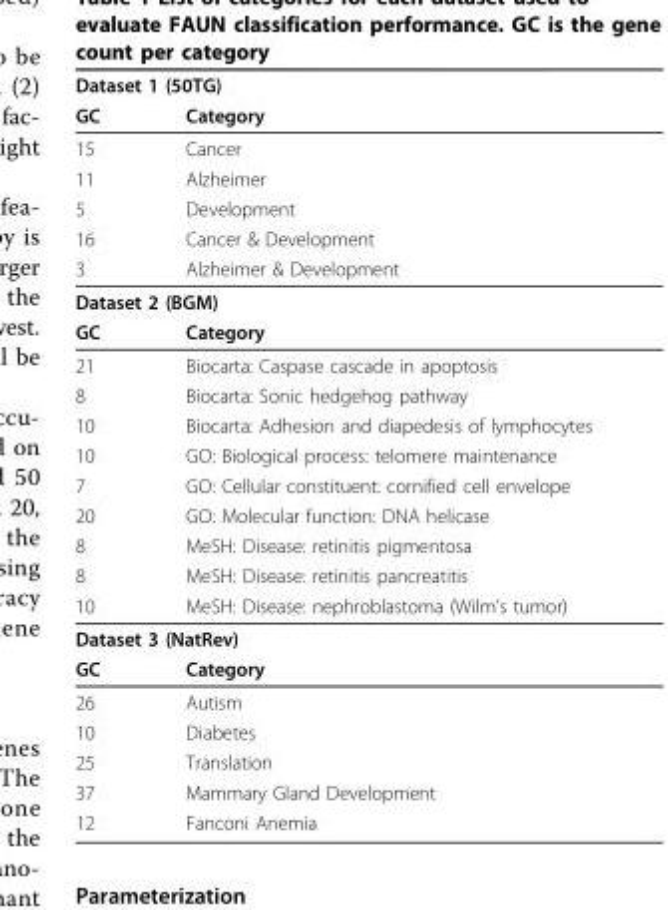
<table><thead><tr><td colspan="2">Dataset 1 (50TG)</td></tr><tr><td>GC</td><td>Category</td></tr></thead><tbody><tr><td>15</td><td>Cancer</td></tr><tr><td>11</td><td>Alzheimer</td></tr><tr><td>5</td><td>Development</td></tr><tr><td>16</td><td>Cancer &amp; Development</td></tr><tr><td>3</td><td>Alzheimer &amp; Development</td></tr><tr><td colspan="2">Dataset 2 (BGM)</td></tr><tr><td>GC</td><td>Category</td></tr><tr><td>21</td><td>Biocarta: Caspase cascade in apoptosis</td></tr><tr><td>8</td><td>Biocarta: Sonic hedgehog pathway</td></tr><tr><td>10</td><td>Biocarta: Adhesion and diapedesis of lymphocytes</td></tr><tr><td>10</td><td>GO: Biological process: telomere maintenance</td></tr><tr><td>7</td><td>GO: Cellular constituent: cornified cell envelope</td></tr><tr><td>20</td><td>GO: Molecular function: DNA helicase</td></tr><tr><td>8</td><td>MeSH: Disease: retinitis pigmentosa</td></tr><tr><td>8</td><td>MeSH: Disease: retinitis pancreatitis</td></tr><tr><td>10</td><td>MeSH: Disease: nephroblastoma (Wilm’s tumor)</td></tr><tr><td colspan="2">Dataset 3 (NatRev)</td></tr><tr><td>GC</td><td>Category</td></tr><tr><td>26</td><td>Autism</td></tr><tr><td>10</td><td>Diabetes</td></tr><tr><td>25</td><td>Translation</td></tr><tr><td>37</td><td>Mammary Gland Development</td></tr><tr><td>12</td><td>Fanconi Anemia</td></tr></tbody></table>